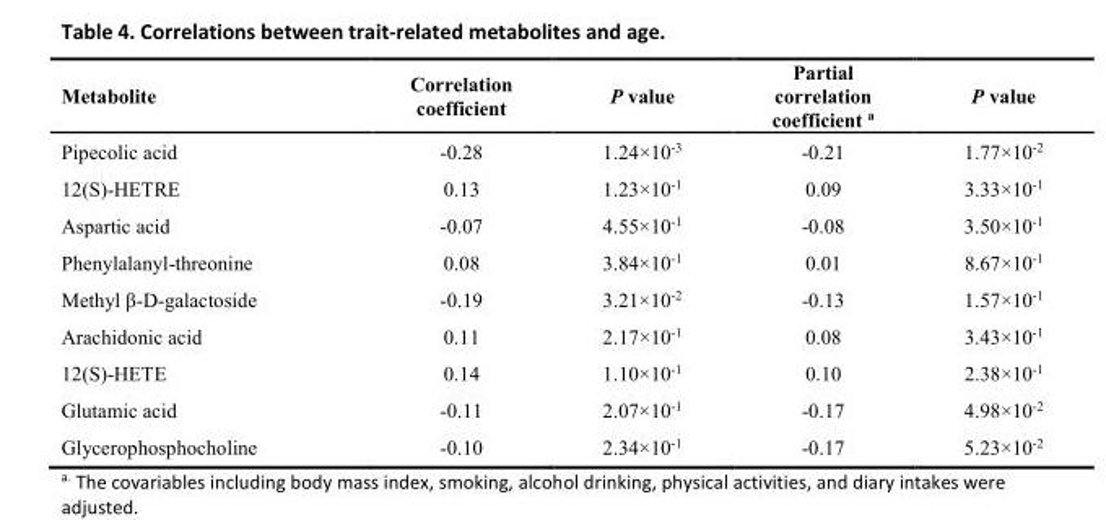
<table><tbody><tr><td>Metabolite</td><td>Correlation coefficient</td><td>P value</td><td>Partial correlation coefficient <sup>a</sup></td><td>P value</td></tr><tr><td>Pipecolic acid</td><td>-0.28</td><td>1.24×10<sup>-3</sup></td><td>-0.21</td><td>1.77×10<sup>-2</sup></td></tr><tr><td>12(S)-HETRE</td><td>0.13</td><td>1.23×10<sup>-1</sup></td><td>0.09</td><td>3.33×10<sup>-1</sup></td></tr><tr><td>Aspartic acid</td><td>-0.07</td><td>4.55×10<sup>-1</sup></td><td>-0.08</td><td>3.50×10<sup>-1</sup></td></tr><tr><td>Phenylalanyl-threonine</td><td>0.08</td><td>3.84×10<sup>-1</sup></td><td>0.01</td><td>8.67×10<sup>-1</sup></td></tr><tr><td>Methyl β-D-galactoside</td><td>-0.19</td><td>3.21×10<sup>-2</sup></td><td>-0.13</td><td>1.57×10<sup>-1</sup></td></tr><tr><td>Arachidonic acid</td><td>0.11</td><td>2.17×10<sup>-1</sup></td><td>0.08</td><td>3.43×10<sup>-1</sup></td></tr><tr><td>12(S)-HETE</td><td>0.14</td><td>1.10×10<sup>-1</sup></td><td>0.10</td><td>2.38×10<sup>-1</sup></td></tr><tr><td>Glutamic acid</td><td>-0.11</td><td>2.07×10<sup>-1</sup></td><td>-0.17</td><td>4.98×10<sup>-2</sup></td></tr><tr><td>Glycerophosphocholine</td><td>-0.10</td><td>2.34×10<sup>-1</sup></td><td>-0.17</td><td>5.23×10<sup>-2</sup></td></tr></tbody></table>